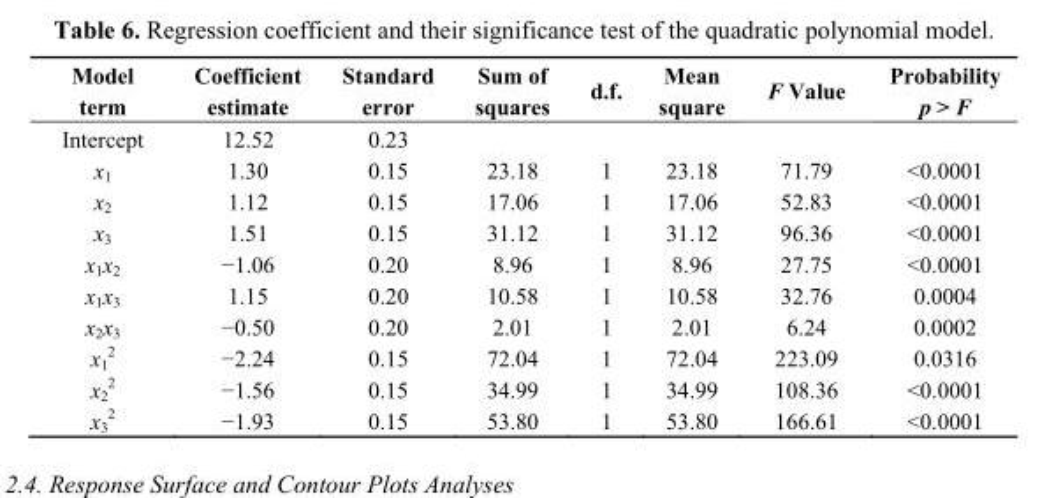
<table><thead><tr><td>Model term</td><td>Coefficient estimate</td><td>Standard error</td><td>Sum of squares</td><td>d.f.</td><td>Mean square</td><td>F Value</td><td>Probability p &gt; F</td></tr></thead><tbody><tr><td>Intercept</td><td>12.52</td><td>0.23</td><td></td><td></td><td></td><td></td><td></td></tr><tr><td>x<sub>1</sub></td><td>1.30</td><td>0.15</td><td>23.18</td><td>1</td><td>23.18</td><td>71.79</td><td>&lt;0.0001</td></tr><tr><td>x<sub>2</sub></td><td>1.12</td><td>0.15</td><td>17.06</td><td>1</td><td>17.06</td><td>52.83</td><td>&lt;0.0001</td></tr><tr><td>x<sub>3</sub></td><td>1.51</td><td>0.15</td><td>31.12</td><td>1</td><td>31.12</td><td>96.36</td><td>&lt;0.0001</td></tr><tr><td>x<sub>1</sub>x<sub>2</sub></td><td>−1.06</td><td>0.20</td><td>8.96</td><td>1</td><td>8.96</td><td>27.75</td><td>&lt;0.0001</td></tr><tr><td>x<sub>1</sub>x<sub>3</sub></td><td>1.15</td><td>0.20</td><td>10.58</td><td>1</td><td>10.58</td><td>32.76</td><td>0.0004</td></tr><tr><td>x<sub>2</sub>x<sub>3</sub></td><td>−0.50</td><td>0.20</td><td>2.01</td><td>1</td><td>2.01</td><td>6.24</td><td>0.0002</td></tr><tr><td>x<sub>1</sub> <sup>2</sup></td><td>−2.24</td><td>0.15</td><td>72.04</td><td>1</td><td>72.04</td><td>223.09</td><td>0.0316</td></tr><tr><td>x<sub>2</sub> <sup>2</sup></td><td>−1.56</td><td>0.15</td><td>34.99</td><td>1</td><td>34.99</td><td>108.36</td><td>&lt;0.0001</td></tr><tr><td>x<sub>3</sub> <sup>2</sup></td><td>−1.93</td><td>0.15</td><td>53.80</td><td>1</td><td>53.80</td><td>166.61</td><td>&lt;0.0001</td></tr></tbody></table>